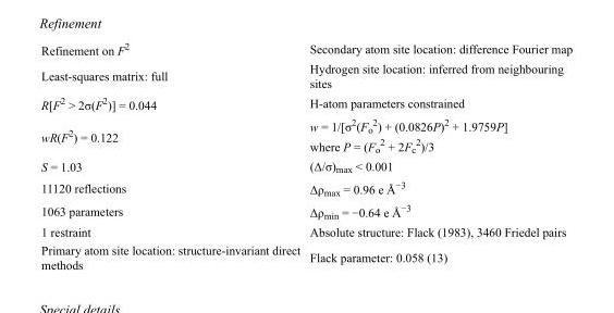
<table><tbody><tr><td>Refinement on F<sup>2</sup></td><td>Secondary atom site location: difference Fourier map</td></tr><tr><td>Least-squares matrix: full</td><td>Hydrogen site location: inferred from neighbouring sites</td></tr><tr><td>R[F<sup>2</sup> &gt; 2σ(F<sup>2</sup>)] = 0.044</td><td>H-atom parameters constrained</td></tr><tr><td>wR(F<sup>2</sup>) = 0.122</td><td>w = 1/[σ<sup>2</sup>(F<sub>o</sub> <sup>2</sup>) + (0.0826P)<sup>2</sup> + 1.9759P] where P = (F<sub>o</sub> <sup>2</sup> + 2F<sub>c</sub> <sup>2</sup>)/3</td></tr><tr><td>S = 1.03</td><td>(Δ/σ)<sub>max</sub> &lt; 0.001</td></tr><tr><td>11120 reflections</td><td>Δρ<sub>max</sub> = 0.96 e Å<sup>−3</sup></td></tr><tr><td>1063 parameters</td><td>Δρ<sub>min</sub> = −0.64 e Å<sup>−3</sup></td></tr><tr><td>1 restraint</td><td>Absolute structure: Flack (1983), 3460 Friedel pairs</td></tr><tr><td>Primary atom site location: structure-invariant direct methods</td><td>Flack parameter: 0.058 (13)</td></tr></tbody></table>